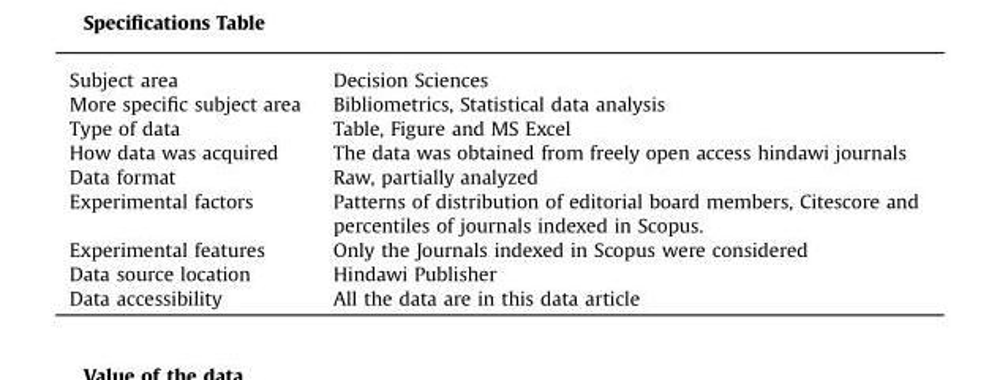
<table><tbody><tr><td>Subject area</td><td>Decision Sciences</td></tr><tr><td>More specific subject area</td><td>Bibliometrics, Statistical data analysis</td></tr><tr><td>Type of data</td><td>Table, Figure and MS Excel</td></tr><tr><td>How data was acquired</td><td>The data was obtained from freely open access hindawi journals</td></tr><tr><td>Data format</td><td>Raw, partially analyzed</td></tr><tr><td>Experimental factors</td><td>Patterns of distribution of editorial board members, Citescore and percentiles of journals indexed in Scopus.</td></tr><tr><td>Experimental features</td><td>Only the Journals indexed in Scopus were considered</td></tr><tr><td>Data source location</td><td>Hindawi Publisher</td></tr><tr><td>Data accessibility</td><td>All the data are in this data article</td></tr></tbody></table>